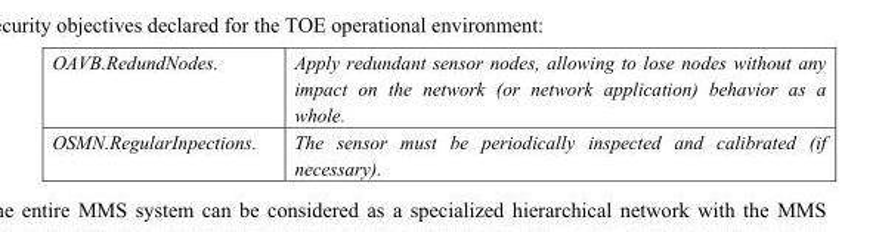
<table><tbody><tr><td>OAVB.RedundNodes.</td><td>Apply redundant sensor nodes, allowing to lose nodes without any impact on the network (or network application) behavior as a whole.</td></tr><tr><td>OSMN.RegularInpections.</td><td>The sensor must be periodically inspected and calibrated (if necessary).</td></tr></tbody></table>